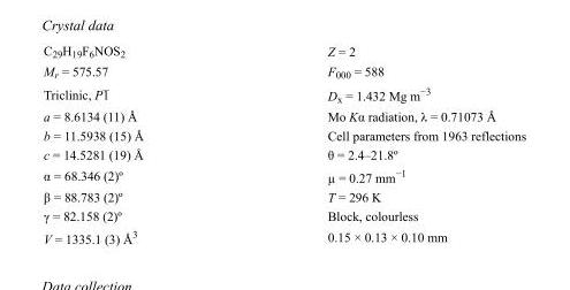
<table><tbody><tr><td>C<sub>29</sub>H<sub>19</sub>F<sub>6</sub>NOS<sub>2</sub></td><td>Z = 2</td></tr><tr><td>M<sub>r</sub> = 575.57</td><td>F000 = 588</td></tr><tr><td>Triclinic, P1</td><td>D<sub>x</sub> = 1.432 Mg m<sup>−3</sup></td></tr><tr><td>a = 8.6134 (11) Å</td><td>Mo Kα radiation, λ = 0.71073 Å</td></tr><tr><td>b = 11.5938 (15) Å</td><td>Cell parameters from 1963 reflections</td></tr><tr><td>c = 14.5281 (19) Å</td><td>θ = 2.4–21.8º</td></tr><tr><td>α = 68.346 (2)º</td><td>µ = 0.27 mm<sup>−1</sup></td></tr><tr><td>β = 88.783 (2)º</td><td>T = 296 K</td></tr><tr><td>γ = 82.158 (2)º</td><td>Block, colourless</td></tr><tr><td>V = 1335.1 (3) Å<sup>3</sup></td><td>0.15 × 0.13 × 0.10 mm</td></tr></tbody></table>